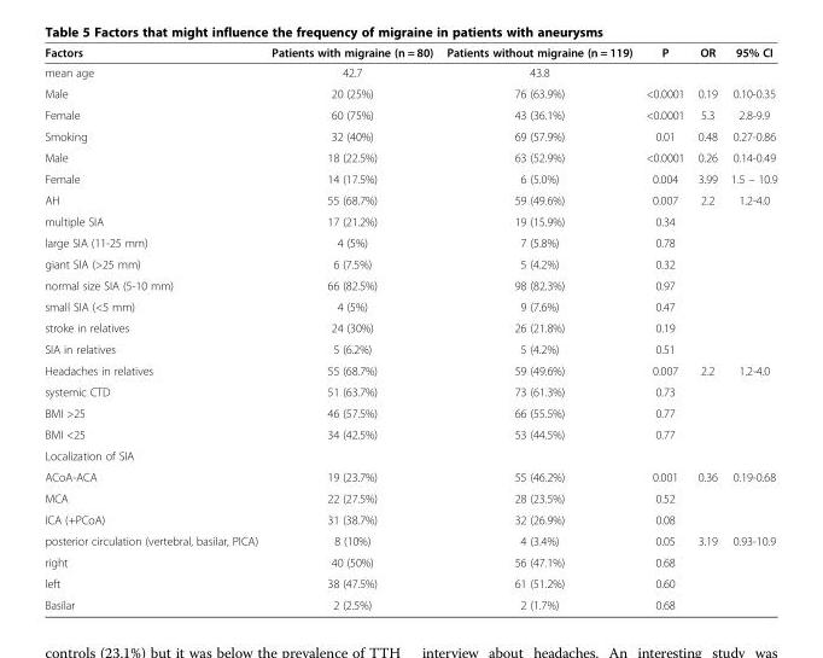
<table><thead><tr><td>Factors</td><td>Patients with migraine (n = 80)</td><td>Patients without migraine (n = 119)</td><td>P</td><td>OR</td><td>95% CI</td></tr></thead><tbody><tr><td>mean age</td><td>42.7</td><td>43.8</td><td></td><td></td><td></td></tr><tr><td>Male</td><td>20 (25%)</td><td>76 (63.9%)</td><td>&lt;0.0001</td><td>0.19</td><td>0.10-0.35</td></tr><tr><td>Female</td><td>60 (75%)</td><td>43 (36.1%)</td><td>&lt;0.0001</td><td>5.3</td><td>2.8-9.9</td></tr><tr><td>Smoking</td><td>32 (40%)</td><td>69 (57.9%)</td><td>0.01</td><td>0.48</td><td>0.27-0.86</td></tr><tr><td>Male</td><td>18 (22.5%)</td><td>63 (52.9%)</td><td>&lt;0.0001</td><td>0.26</td><td>0.14-0.49</td></tr><tr><td>Female</td><td>14 (17.5%)</td><td>6 (5.0%)</td><td>0.004</td><td>3.99</td><td>1.5 – 10.9</td></tr><tr><td>AH</td><td>55 (68.7%)</td><td>59 (49.6%)</td><td>0.007</td><td>2.2</td><td>1.2-4.0</td></tr><tr><td>multiple SIA</td><td>17 (21.2%)</td><td>19 (15.9%)</td><td>0.34</td><td></td><td></td></tr><tr><td>large SIA (11-25 mm)</td><td>4 (5%)</td><td>7 (5.8%)</td><td>0.78</td><td></td><td></td></tr><tr><td>giant SIA (&gt;25 mm)</td><td>6 (7.5%)</td><td>5 (4.2%)</td><td>0.32</td><td></td><td></td></tr><tr><td>normal size SIA (5-10 mm)</td><td>66 (82.5%)</td><td>98 (82.3%)</td><td>0.97</td><td></td><td></td></tr><tr><td>small SIA (&lt;5 mm)</td><td>4 (5%)</td><td>9 (7.6%)</td><td>0.47</td><td></td><td></td></tr><tr><td>stroke in relatives</td><td>24 (30%)</td><td>26 (21.8%)</td><td>0.19</td><td></td><td></td></tr><tr><td>SIA in relatives</td><td>5 (6.2%)</td><td>5 (4.2%)</td><td>0.51</td><td></td><td></td></tr><tr><td>Headaches in relatives</td><td>55 (68.7%)</td><td>59 (49.6%)</td><td>0.007</td><td>2.2</td><td>1.2-4.0</td></tr><tr><td>systemic CTD</td><td>51 (63.7%)</td><td>73 (61.3%)</td><td>0.73</td><td></td><td></td></tr><tr><td>BMI &gt;25</td><td>46 (57.5%)</td><td>66 (55.5%)</td><td>0.77</td><td></td><td></td></tr><tr><td>BMI &lt;25</td><td>34 (42.5%)</td><td>53 (44.5%)</td><td>0.77</td><td></td><td></td></tr><tr><td colspan="6">Localization of SIA</td></tr><tr><td>ACoA-ACA</td><td>19 (23.7%)</td><td>55 (46.2%)</td><td>0.001</td><td>0.36</td><td>0.19-0.68</td></tr><tr><td>MCA</td><td>22 (27.5%)</td><td>28 (23.5%)</td><td>0.52</td><td></td><td></td></tr><tr><td>ICA (+PCoA)</td><td>31 (38.7%)</td><td>32 (26.9%)</td><td>0.08</td><td></td><td></td></tr><tr><td>posterior circulation (vertebral, basilar, PICA)</td><td>8 (10%)</td><td>4 (3.4%)</td><td>0.05</td><td>3.19</td><td>0.93-10.9</td></tr><tr><td>right</td><td>40 (50%)</td><td>56 (47.1%)</td><td>0.68</td><td></td><td></td></tr><tr><td>left</td><td>38 (47.5%)</td><td>61 (51.2%)</td><td>0.60</td><td></td><td></td></tr><tr><td>Basilar</td><td>2 (2.5%)</td><td>2 (1.7%)</td><td>0.68</td><td></td><td></td></tr></tbody></table>